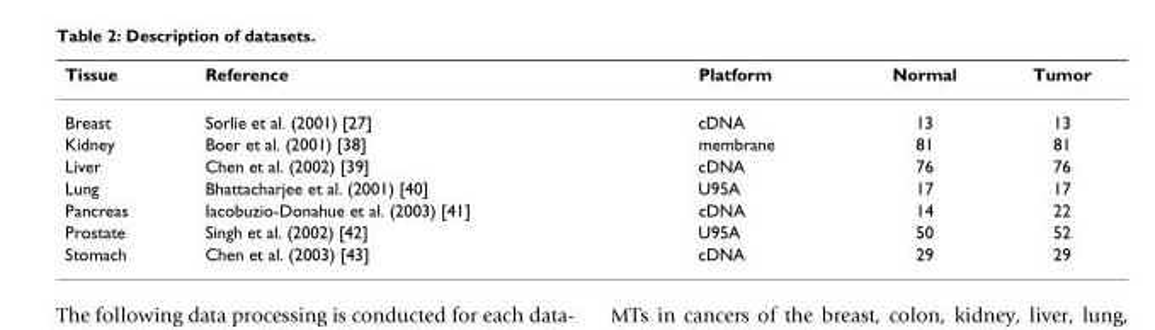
<table><thead><tr><td>Tissue</td><td>Reference</td><td>Platform</td><td>Normal</td><td>Tumor</td></tr></thead><tbody><tr><td>Breast</td><td>Sorlie et al. (2001) [27]</td><td>cDNA</td><td>13</td><td>13</td></tr><tr><td>Kidney</td><td>Boer et al. (2001) [38]</td><td>membrane</td><td>81</td><td>81</td></tr><tr><td>Liver</td><td>Chen et al. (2002) [39]</td><td>cDNA</td><td>76</td><td>76</td></tr><tr><td>Lung</td><td>Bhattacharjee et al. (2001) [40]</td><td>U95A</td><td>17</td><td>17</td></tr><tr><td>Pancreas</td><td>Iacobuzio-Donahue et al. (2003) [41]</td><td>cDNA</td><td>14</td><td>22</td></tr><tr><td>Prostate</td><td>Singh et al. (2002) [42]</td><td>U95A</td><td>50</td><td>52</td></tr><tr><td>Stomach</td><td>Chen et al. (2003) [43]</td><td>cDNA</td><td>29</td><td>29</td></tr></tbody></table>